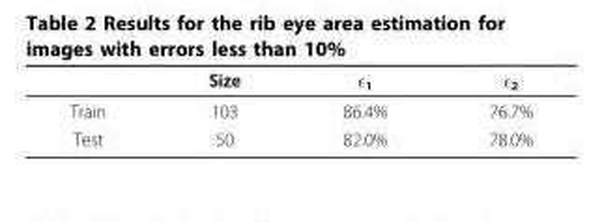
<table><thead><tr><td></td><td>Size</td><td>ϵ<sub>1</sub></td><td>ϵ<sub>2</sub></td></tr></thead><tbody><tr><td>Train</td><td>103</td><td>86.4%</td><td>76.7%</td></tr><tr><td>Test</td><td>50</td><td>82.0%</td><td>78.0%</td></tr></tbody></table>